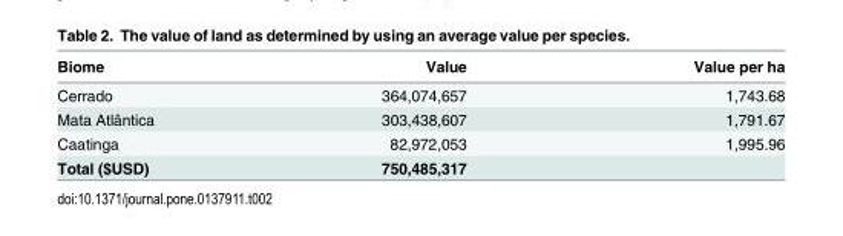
<table><thead><tr><td>Biome</td><td>Value</td><td>Value per ha</td></tr></thead><tbody><tr><td>Cerrado</td><td>364,074,657</td><td>1,743.68</td></tr><tr><td>Mata Atlântica</td><td>303,438,607</td><td>1,791.67</td></tr><tr><td>Caatinga</td><td>82,972,053</td><td>1,995.96</td></tr><tr><td>Total ($USD)</td><td>750,485,317</td><td></td></tr></tbody></table>